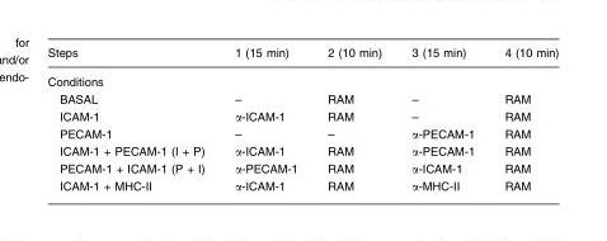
<table><thead><tr><td>Steps</td><td>1 (15 min)</td><td>2 (10 min)</td><td>3 (15 min)</td><td>4 (10 min)</td></tr></thead><tbody><tr><td colspan="5">Conditions</td></tr><tr><td>BASAL</td><td>–</td><td>RAM</td><td>–</td><td>RAM</td></tr><tr><td>ICAM-1</td><td>α-ICAM-1</td><td>RAM</td><td>–</td><td>RAM</td></tr><tr><td>PECAM-1</td><td>–</td><td>–</td><td>α-PECAM-1</td><td>RAM</td></tr><tr><td>ICAM-1 + PECAM-1 (I + P)</td><td>α-ICAM-1</td><td>RAM</td><td>α-PECAM-1</td><td>RAM</td></tr><tr><td>PECAM-1 + ICAM-1 (P + I)</td><td>α-PECAM-1</td><td>RAM</td><td>α-ICAM-1</td><td>RAM</td></tr><tr><td>ICAM-1 + MHC-II</td><td>α-ICAM-1</td><td>RAM</td><td>α-MHC-II</td><td>RAM</td></tr></tbody></table>